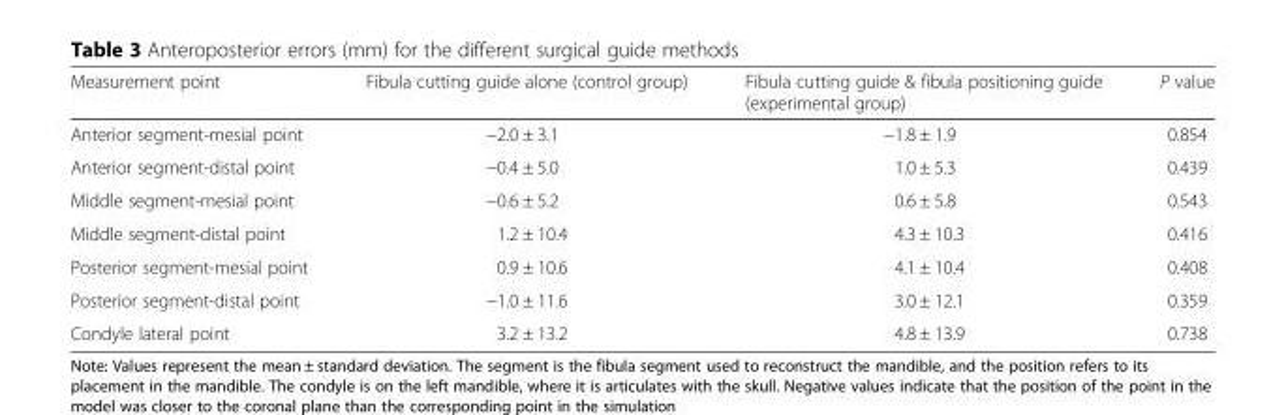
<table><thead><tr><td>Measurement point</td><td>Fibula cutting guide alone (control group)</td><td>Fibula cutting guide &amp; fibula positioning guide (experimental group)</td><td>P value</td></tr></thead><tbody><tr><td>Anterior segment-mesial point</td><td>−2.0 ± 3.1</td><td>−1.8 ± 1.9</td><td>0.854</td></tr><tr><td>Anterior segment-distal point</td><td>−0.4 ± 5.0</td><td>1.0 ± 5.3</td><td>0.439</td></tr><tr><td>Middle segment-mesial point</td><td>−0.6 ± 5.2</td><td>0.6 ± 5.8</td><td>0.543</td></tr><tr><td>Middle segment-distal point</td><td>1.2 ± 10.4</td><td>4.3 ± 10.3</td><td>0.416</td></tr><tr><td>Posterior segment-mesial point</td><td>0.9 ± 10.6</td><td>4.1 ± 10.4</td><td>0.408</td></tr><tr><td>Posterior segment-distal point</td><td>−1.0 ± 11.6</td><td>3.0 ± 12.1</td><td>0.359</td></tr><tr><td>Condyle lateral point</td><td>3.2 ± 13.2</td><td>4.8 ± 13.9</td><td>0.738</td></tr></tbody></table>